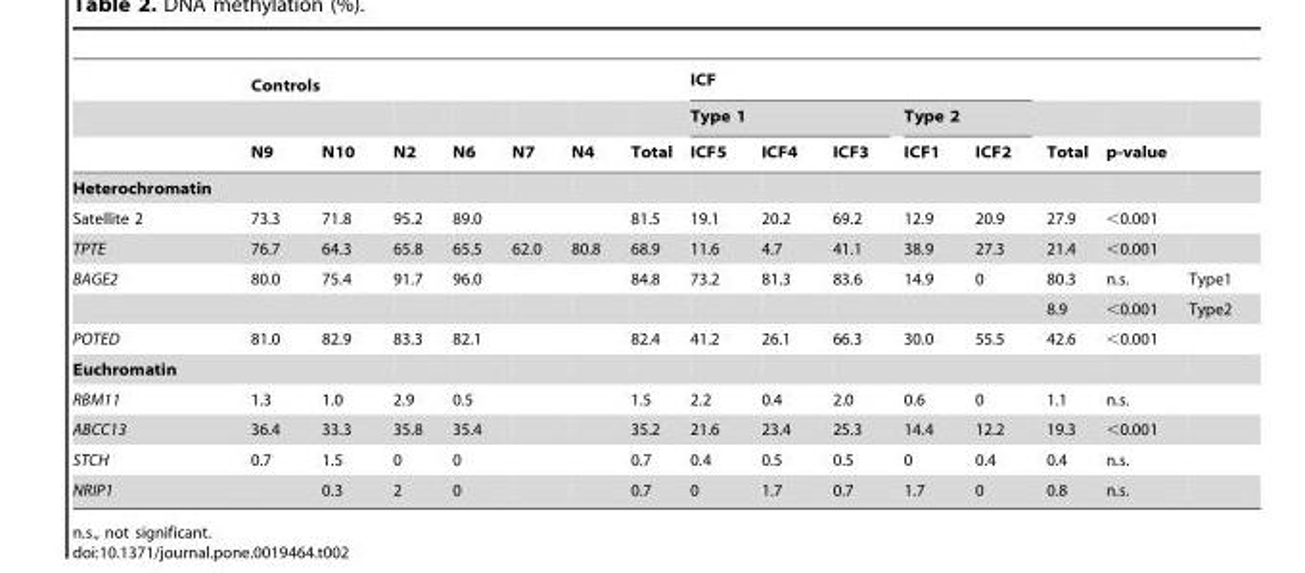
<table><thead><tr><td rowspan="3"></td><td colspan="7">Controls</td><td colspan="5">ICF</td><td rowspan="3">Total</td><td rowspan="3">p-value</td><td rowspan="3"></td></tr><tr><td rowspan="2">N9</td><td rowspan="2">N10</td><td rowspan="2">N2</td><td rowspan="2">N6</td><td rowspan="2">N7</td><td rowspan="2">N4</td><td rowspan="2">Total</td><td colspan="3">Type 1</td><td colspan="2">Type 2</td></tr><tr><td>ICF5</td><td>ICF4</td><td>ICF3</td><td>ICF1</td><td>ICF2</td></tr></thead><tbody><tr><td colspan="16">Heterochromatin</td></tr><tr><td>Satellite 2</td><td>73.3</td><td>71.8</td><td>95.2</td><td>89.0</td><td></td><td></td><td>81.5</td><td>19.1</td><td>20.2</td><td>69.2</td><td>12.9</td><td>20.9</td><td>27.9</td><td>&lt;0.001</td><td></td></tr><tr><td>TPTE</td><td>76.7</td><td>64.3</td><td>65.8</td><td>65.5</td><td>62.0</td><td>80.8</td><td>68.9</td><td>11.6</td><td>4.7</td><td>41.1</td><td>38.9</td><td>27.3</td><td>21.4</td><td>&lt;0.001</td><td></td></tr><tr><td rowspan="2">BAGE2</td><td>80.0</td><td>75.4</td><td>91.7</td><td>96.0</td><td></td><td></td><td>84.8</td><td>73.2</td><td>81.3</td><td>83.6</td><td>14.9</td><td>0</td><td>80.3</td><td>n.s.</td><td>Type1</td></tr><tr><td></td><td></td><td></td><td></td><td></td><td></td><td></td><td></td><td></td><td></td><td></td><td></td><td>8.9</td><td>&lt;0.001</td><td>Type2</td></tr><tr><td>POTED</td><td>81.0</td><td>82.9</td><td>83.3</td><td>82.1</td><td></td><td></td><td>82.4</td><td>41.2</td><td>26.1</td><td>66.3</td><td>30.0</td><td>55.5</td><td>42.6</td><td>&lt;0.001</td><td></td></tr><tr><td colspan="16">Euchromatin</td></tr><tr><td>RBM11</td><td>1.3</td><td>1.0</td><td>2.9</td><td>0.5</td><td></td><td></td><td>1.5</td><td>2.2</td><td>0.4</td><td>2.0</td><td>0.6</td><td>0</td><td>1.1</td><td>n.s.</td><td></td></tr><tr><td>ABCC13</td><td>36.4</td><td>33.3</td><td>35.8</td><td>35.4</td><td></td><td></td><td>35.2</td><td>21.6</td><td>23.4</td><td>25.3</td><td>14.4</td><td>12.2</td><td>19.3</td><td>&lt;0.001</td><td></td></tr><tr><td>STCH</td><td>0.7</td><td>1.5</td><td>0</td><td>0</td><td></td><td></td><td>0.7</td><td>0.4</td><td>0.5</td><td>0.5</td><td>0</td><td>0.4</td><td>0.4</td><td>n.s.</td><td></td></tr><tr><td>NRIP1</td><td></td><td>0.3</td><td>2</td><td>0</td><td></td><td></td><td>0.7</td><td>0</td><td>1.7</td><td>0.7</td><td>1.7</td><td>0</td><td>0.8</td><td>n.s.</td><td></td></tr></tbody></table>